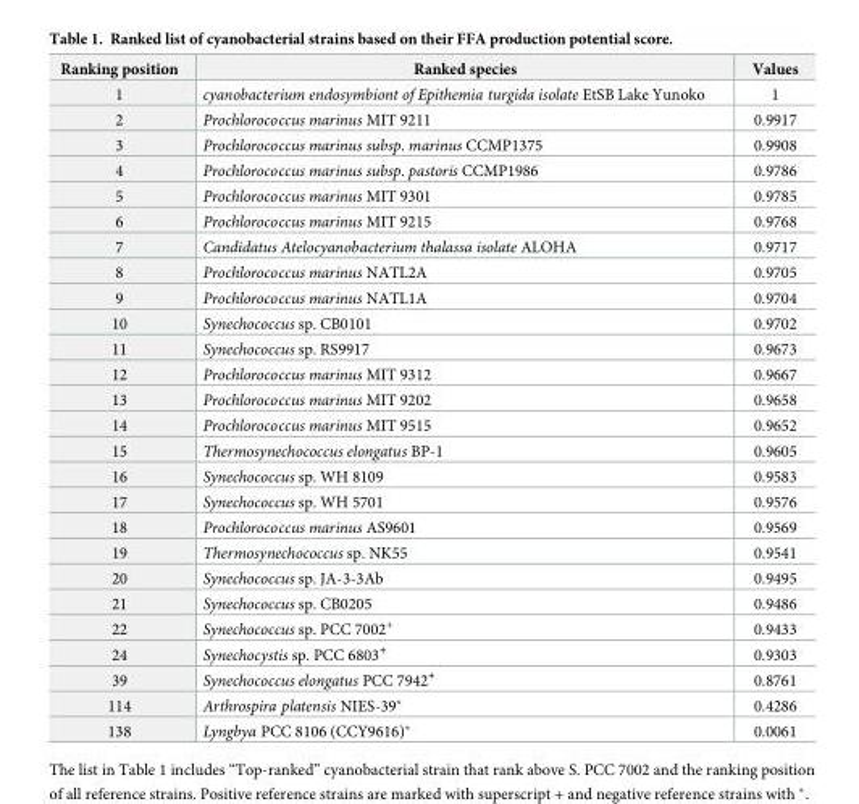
<table><thead><tr><td>Ranking position</td><td>Ranked species</td><td>Values</td></tr></thead><tbody><tr><td>1</td><td>cyanobacterium endosymbiont of Epithemia turgida isolate EtSB Lake Yunoko</td><td>1</td></tr><tr><td>2</td><td>Prochlorococcus marinus MIT 9211</td><td>0.9917</td></tr><tr><td>3</td><td>Prochlorococcus marinus subsp. marinus CCMP1375</td><td>0.9908</td></tr><tr><td>4</td><td>Prochlorococcus marinus subsp. pastoris CCMP1986</td><td>0.9786</td></tr><tr><td>5</td><td>Prochlorococcus marinus MIT 9301</td><td>0.9785</td></tr><tr><td>6</td><td>Prochlorococcus marinus MIT 9215</td><td>0.9768</td></tr><tr><td>7</td><td>Candidatus Atelocyanobacterium thalassa isolate ALOHA</td><td>0.9717</td></tr><tr><td>8</td><td>Prochlorococcus marinus NATL2A</td><td>0.9705</td></tr><tr><td>9</td><td>Prochlorococcus marinus NATL1A</td><td>0.9704</td></tr><tr><td>10</td><td>Synechococcus sp. CB0101</td><td>0.9702</td></tr><tr><td>11</td><td>Synechococcus sp. RS9917</td><td>0.9673</td></tr><tr><td>12</td><td>Prochlorococcus marinus MIT 9312</td><td>0.9667</td></tr><tr><td>13</td><td>Prochlorococcus marinus MIT 9202</td><td>0.9658</td></tr><tr><td>14</td><td>Prochlorococcus marinus MIT 9515</td><td>0.9652</td></tr><tr><td>15</td><td>Thermosynechococcus elongatus BP-1</td><td>0.9605</td></tr><tr><td>16</td><td>Synechococcus sp. WH 8109</td><td>0.9583</td></tr><tr><td>17</td><td>Synechococcus sp. WH 5701</td><td>0.9576</td></tr><tr><td>18</td><td>Prochlorococcus marinus AS9601</td><td>0.9569</td></tr><tr><td>19</td><td>Thermosynechococcus sp. NK55</td><td>0.9541</td></tr><tr><td>20</td><td>Synechococcus sp. JA-3-3Ab</td><td>0.9495</td></tr><tr><td>21</td><td>Synechococcus sp. CB0205</td><td>0.9486</td></tr><tr><td>22</td><td>Synechococcus sp. PCC 7002<sup>+</sup></td><td>0.9433</td></tr><tr><td>24</td><td>Synechocystis sp. PCC 6803<sup>+</sup></td><td>0.9303</td></tr><tr><td>39</td><td>Synechococcus elongatus PCC 7942<sup>+</sup></td><td>0.8761</td></tr><tr><td>114</td><td>Arthrospira platensis NIES-39*</td><td>0.4286</td></tr><tr><td>138</td><td>Lyngbya PCC 8106 (CCY9616)*</td><td>0.0061</td></tr></tbody></table>